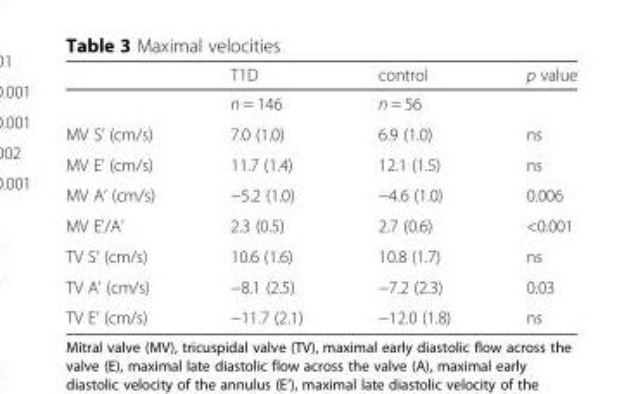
<table><thead><tr><td></td><td>T1D</td><td>control</td><td>p value</td></tr></thead><tbody><tr><td></td><td>n = 146</td><td>n = 56</td><td></td></tr><tr><td>MV S’ (cm/s)</td><td>7.0 (1.0)</td><td>6.9 (1.0)</td><td>ns</td></tr><tr><td>MV E’ (cm/s)</td><td>11.7 (1.4)</td><td>12.1 (1.5)</td><td>ns</td></tr><tr><td>MV A’ (cm/s)</td><td>−5.2 (1.0)</td><td>−4.6 (1.0)</td><td>0.006</td></tr><tr><td>MV E&#x27;/A’</td><td>2.3 (0.5)</td><td>2.7 (0.6)</td><td>&lt;0.001</td></tr><tr><td>TV S’ (cm/s)</td><td>10.6 (1.6)</td><td>10.8 (1.7)</td><td>ns</td></tr><tr><td>TV A’ (cm/s)</td><td>−8.1 (2.5)</td><td>−7.2 (2.3)</td><td>0.03</td></tr><tr><td>TV E’ (cm/s)</td><td>−11.7 (2.1)</td><td>−12.0 (1.8)</td><td>ns</td></tr></tbody></table>